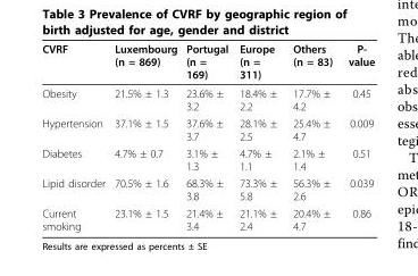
<table><thead><tr><td>CVRF</td><td>Luxembourg (n = 869)</td><td>Portugal (n = 169)</td><td>Europe (n = 311)</td><td>Others (n = 83)</td><td>P- value</td></tr></thead><tbody><tr><td>Obesity</td><td>21.5% ± 1.3</td><td>23.6% ± 3.2</td><td>18.4% ± 2.2</td><td>17.7% ± 4.2</td><td>0.45</td></tr><tr><td>Hypertension</td><td>37.1% ± 1.5</td><td>37.6% ± 3.7</td><td>28.1% ± 2.5</td><td>25.4% ± 4.7</td><td>0.009</td></tr><tr><td>Diabetes</td><td>4.7% ± 0.7</td><td>3.1% ± 1.3</td><td>4.7% ± 1.1</td><td>2.1% ± 1.4</td><td>0.51</td></tr><tr><td>Lipid disorder</td><td>70.5% ± 1.6</td><td>68.3% ± 3.8</td><td>73.3% ± 5.8</td><td>56.3% ± 2.6</td><td>0.039</td></tr><tr><td>Current smoking</td><td>23.1% ± 1.5</td><td>21.4% ± 3.4</td><td>21.1% ± 2.4</td><td>20.4% ± 4.7</td><td>0.86</td></tr></tbody></table>